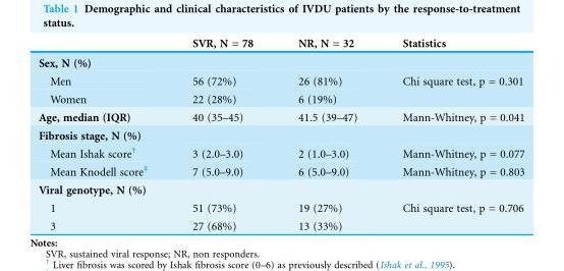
<table><thead><tr><td></td><td>SVR, N = 78</td><td>NR, N = 32</td><td>Statistics</td></tr></thead><tbody><tr><td colspan="4">Sex, N (%)</td></tr><tr><td>Men</td><td>56 (72%)</td><td>26 (81%)</td><td rowspan="2">Chi square test, p = 0.301</td></tr><tr><td>Women</td><td>22 (28%)</td><td>6 (19%)</td></tr><tr><td>Age, median (IQR)</td><td>40 (35–45)</td><td>41.5 (39–47)</td><td>Mann-Whitney, p = 0.041</td></tr><tr><td colspan="4">Fibrosis stage, N (%)</td></tr><tr><td>Mean Ishak score<sup>†</sup></td><td>3 (2.0–3.0)</td><td>2 (1.0–3.0)</td><td>Mann-Whitney, p = 0.077</td></tr><tr><td>Mean Knodell score<sup>‡</sup></td><td>7 (5.0–9.0)</td><td>6 (5.0–9.0)</td><td>Mann-Whitney, p = 0.803</td></tr><tr><td colspan="4">Viral genotype, N (%)</td></tr><tr><td>1</td><td>51 (73%)</td><td>19 (27%)</td><td rowspan="2">Chi square test, p = 0.706</td></tr><tr><td>3</td><td>27 (68%)</td><td>13 (33%)</td></tr></tbody></table>